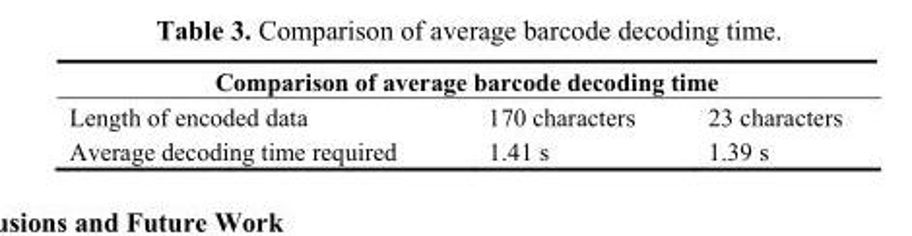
<table><thead><tr><td colspan="3">Comparison of average barcode decoding time</td></tr><tr><td>Length of encoded data</td><td>170 characters</td><td>23 characters</td></tr></thead><tbody><tr><td>Average decoding time required</td><td>1.41 s</td><td>1.39 s</td></tr></tbody></table>